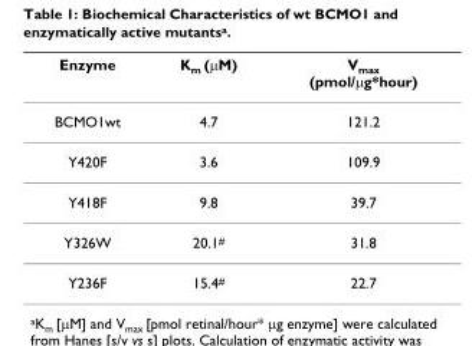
<table><thead><tr><td>Enzyme</td><td>K<sub>m</sub> (μM)</td><td>V<sub>max</sub> (pmol/μg*hour)</td></tr></thead><tbody><tr><td>BCMO1wt</td><td>4.7</td><td>121.2</td></tr><tr><td>Y420F</td><td>3.6</td><td>109.9</td></tr><tr><td>Y418F</td><td>9.8</td><td>39.7</td></tr><tr><td>Y326W</td><td>20.1<sup>#</sup></td><td>31.8</td></tr><tr><td>Y236F</td><td>15.4<sup>#</sup></td><td>22.7</td></tr></tbody></table>